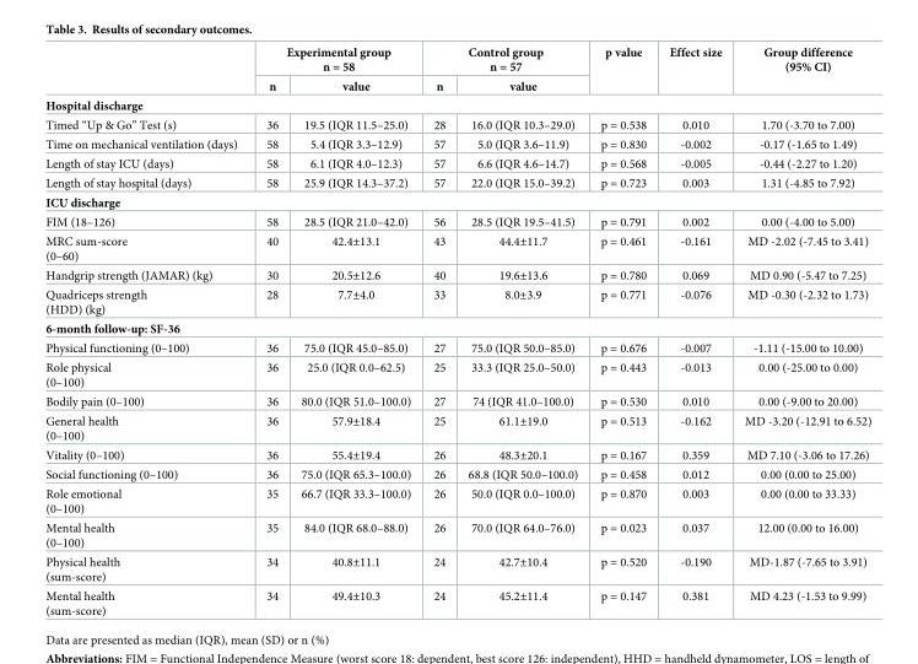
<table><thead><tr><td rowspan="2"></td><td colspan="2">Experimental group n = 58</td><td colspan="2">Control group n = 57</td><td rowspan="2">p value</td><td rowspan="2">Effect size</td><td rowspan="2">Group difference (95% CI)</td></tr><tr><td>n</td><td>value</td><td>n</td><td>value</td></tr></thead><tbody><tr><td colspan="8">Hospital discharge</td></tr><tr><td>Timed “Up &amp; Go” Test (s)</td><td>36</td><td>19.5 (IQR 11.5–25.0)</td><td>28</td><td>16.0 (IQR 10.3–29.0)</td><td>p = 0.538</td><td>0.010</td><td>1.70 (-3.70 to 7.00)</td></tr><tr><td>Time on mechanical ventilation (days)</td><td>58</td><td>5.4 (IQR 3.3–12.9)</td><td>57</td><td>5.0 (IQR 3.6–11.9)</td><td>p = 0.830</td><td>-0.002</td><td>-0.17 (-1.65 to 1.49)</td></tr><tr><td>Length of stay ICU (days)</td><td>58</td><td>6.1 (IQR 4.0–12.3)</td><td>57</td><td>6.6 (IQR 4.6–14.7)</td><td>p = 0.568</td><td>-0.005</td><td>-0.44 (-2.27 to 1.20)</td></tr><tr><td>Length of stay hospital (days)</td><td>58</td><td>25.9 (IQR 14.3–37.2)</td><td>57</td><td>22.0 (IQR 15.0–39.2)</td><td>p = 0.723</td><td>0.003</td><td>1.31 (-4.85 to 7.92)</td></tr><tr><td colspan="8">ICU discharge</td></tr><tr><td>FIM (18–126)</td><td>58</td><td>28.5 (IQR 21.0–42.0)</td><td>56</td><td>28.5 (IQR 19.5–41.5)</td><td>p = 0.791</td><td>0.002</td><td>0.00 (-4.00 to 5.00)</td></tr><tr><td>MRC sum-score (0–60)</td><td>40</td><td>42.4±13.1</td><td>43</td><td>44.4±11.7</td><td>p = 0.461</td><td>-0.161</td><td>MD -2.02 (-7.45 to 3.41)</td></tr><tr><td>Handgrip strength (JAMAR) (kg)</td><td>30</td><td>20.5±12.6</td><td>40</td><td>19.6±13.6</td><td>p = 0.780</td><td>0.069</td><td>MD 0.90 (-5.47 to 7.25)</td></tr><tr><td>Quadriceps strength (HDD) (kg)</td><td>28</td><td>7.7±4.0</td><td>33</td><td>8.0±3.9</td><td>p = 0.771</td><td>-0.076</td><td>MD -0.30 (-2.32 to 1.73)</td></tr><tr><td colspan="8">6-month follow-up: SF-36</td></tr><tr><td>Physical functioning (0–100)</td><td>36</td><td>75.0 (IQR 45.0–85.0)</td><td>27</td><td>75.0 (IQR 50.0–85.0)</td><td>p = 0.676</td><td>-0.007</td><td>-1.11 (-15.00 to 10.00)</td></tr><tr><td>Role physical (0–100)</td><td>36</td><td>25.0 (IQR 0.0–62.5)</td><td>25</td><td>33.3 (IQR 25.0–50.0)</td><td>p = 0.443</td><td>-0.013</td><td>0.00 (-25.00 to 0.00)</td></tr><tr><td>Bodily pain (0–100)</td><td>36</td><td>80.0 (IQR 51.0–100.0)</td><td>27</td><td>74 (IQR 41.0–100.0)</td><td>p = 0.530</td><td>0.010</td><td>0.00 (-9.00 to 20.00)</td></tr><tr><td>General health (0–100)</td><td>36</td><td>57.9±18.4</td><td>25</td><td>61.1±19.0</td><td>p = 0.513</td><td>-0.162</td><td>MD -3.20 (-12.91 to 6.52)</td></tr><tr><td>Vitality (0–100)</td><td>36</td><td>55.4±19.4</td><td>26</td><td>48.3±20.1</td><td>p = 0.167</td><td>0.359</td><td>MD 7.10 (-3.06 to 17.26)</td></tr><tr><td>Social functioning (0–100)</td><td>36</td><td>75.0 (IQR 65.3–100.0)</td><td>26</td><td>68.8 (IQR 50.0–100.0)</td><td>p = 0.458</td><td>0.012</td><td>0.00 (0.00 to 25.00)</td></tr><tr><td>Role emotional (0–100)</td><td>35</td><td>66.7 (IQR 33.3–100.0)</td><td>26</td><td>50.0 (IQR 0.0–100.0)</td><td>p = 0.870</td><td>0.003</td><td>0.00 (0.00 to 33.33)</td></tr><tr><td>Mental health (0–100)</td><td>35</td><td>84.0 (IQR 68.0–88.0)</td><td>26</td><td>70.0 (IQR 64.0–76.0)</td><td>p = 0.023</td><td>0.037</td><td>12.00 (0.00 to 16.00)</td></tr><tr><td>Physical health (sum-score)</td><td>34</td><td>40.8±11.1</td><td>24</td><td>42.7±10.4</td><td>p = 0.520</td><td>-0.190</td><td>MD-1.87 (-7.65 to 3.91)</td></tr><tr><td>Mental health (sum-score)</td><td>34</td><td>49.4±10.3</td><td>24</td><td>45.2±11.4</td><td>p = 0.147</td><td>0.381</td><td>MD 4.23 (-1.53 to 9.99)</td></tr></tbody></table>